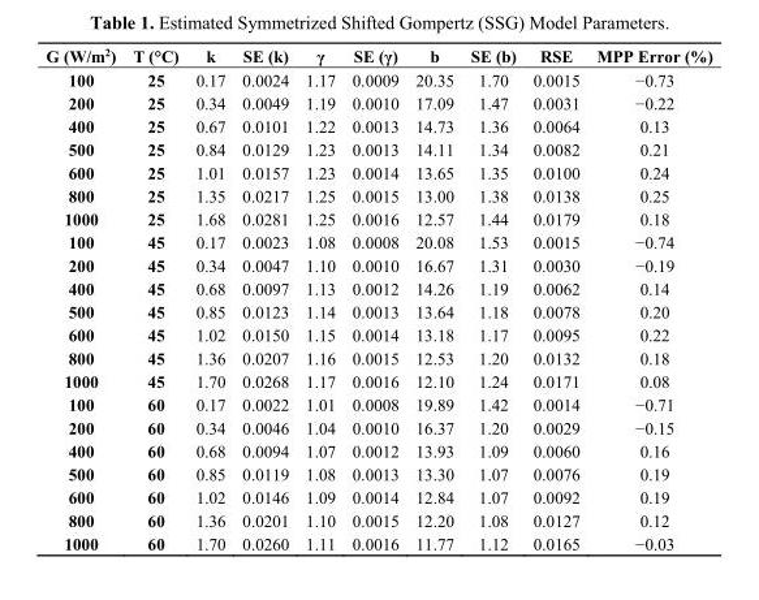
<table><thead><tr><td>G (W/m<sup>2</sup>)</td><td>T (°C)</td><td>k</td><td>SE (k)</td><td>γ</td><td>SE (γ)</td><td>b</td><td>SE (b)</td><td>RSE</td><td>MPP Error (%)</td></tr></thead><tbody><tr><td>100</td><td>25</td><td>0.17</td><td>0.0024</td><td>1.17</td><td>0.0009</td><td>20.35</td><td>1.70</td><td>0.0015</td><td>−0.73</td></tr><tr><td>200</td><td>25</td><td>0.34</td><td>0.0049</td><td>1.19</td><td>0.0010</td><td>17.09</td><td>1.47</td><td>0.0031</td><td>−0.22</td></tr><tr><td>400</td><td>25</td><td>0.67</td><td>0.0101</td><td>1.22</td><td>0.0013</td><td>14.73</td><td>1.36</td><td>0.0064</td><td>0.13</td></tr><tr><td>500</td><td>25</td><td>0.84</td><td>0.0129</td><td>1.23</td><td>0.0013</td><td>14.11</td><td>1.34</td><td>0.0082</td><td>0.21</td></tr><tr><td>600</td><td>25</td><td>1.01</td><td>0.0157</td><td>1.23</td><td>0.0014</td><td>13.65</td><td>1.35</td><td>0.0100</td><td>0.24</td></tr><tr><td>800</td><td>25</td><td>1.35</td><td>0.0217</td><td>1.25</td><td>0.0015</td><td>13.00</td><td>1.38</td><td>0.0138</td><td>0.25</td></tr><tr><td>1000</td><td>25</td><td>1.68</td><td>0.0281</td><td>1.25</td><td>0.0016</td><td>12.57</td><td>1.44</td><td>0.0179</td><td>0.18</td></tr><tr><td>100</td><td>45</td><td>0.17</td><td>0.0023</td><td>1.08</td><td>0.0008</td><td>20.08</td><td>1.53</td><td>0.0015</td><td>−0.74</td></tr><tr><td>200</td><td>45</td><td>0.34</td><td>0.0047</td><td>1.10</td><td>0.0010</td><td>16.67</td><td>1.31</td><td>0.0030</td><td>−0.19</td></tr><tr><td>400</td><td>45</td><td>0.68</td><td>0.0097</td><td>1.13</td><td>0.0012</td><td>14.26</td><td>1.19</td><td>0.0062</td><td>0.14</td></tr><tr><td>500</td><td>45</td><td>0.85</td><td>0.0123</td><td>1.14</td><td>0.0013</td><td>13.64</td><td>1.18</td><td>0.0078</td><td>0.20</td></tr><tr><td>600</td><td>45</td><td>1.02</td><td>0.0150</td><td>1.15</td><td>0.0014</td><td>13.18</td><td>1.17</td><td>0.0095</td><td>0.22</td></tr><tr><td>800</td><td>45</td><td>1.36</td><td>0.0207</td><td>1.16</td><td>0.0015</td><td>12.53</td><td>1.20</td><td>0.0132</td><td>0.18</td></tr><tr><td>1000</td><td>45</td><td>1.70</td><td>0.0268</td><td>1.17</td><td>0.0016</td><td>12.10</td><td>1.24</td><td>0.0171</td><td>0.08</td></tr><tr><td>100</td><td>60</td><td>0.17</td><td>0.0022</td><td>1.01</td><td>0.0008</td><td>19.89</td><td>1.42</td><td>0.0014</td><td>−0.71</td></tr><tr><td>200</td><td>60</td><td>0.34</td><td>0.0046</td><td>1.04</td><td>0.0010</td><td>16.37</td><td>1.20</td><td>0.0029</td><td>−0.15</td></tr><tr><td>400</td><td>60</td><td>0.68</td><td>0.0094</td><td>1.07</td><td>0.0012</td><td>13.93</td><td>1.09</td><td>0.0060</td><td>0.16</td></tr><tr><td>500</td><td>60</td><td>0.85</td><td>0.0119</td><td>1.08</td><td>0.0013</td><td>13.30</td><td>1.07</td><td>0.0076</td><td>0.19</td></tr><tr><td>600</td><td>60</td><td>1.02</td><td>0.0146</td><td>1.09</td><td>0.0014</td><td>12.84</td><td>1.07</td><td>0.0092</td><td>0.19</td></tr><tr><td>800</td><td>60</td><td>1.36</td><td>0.0201</td><td>1.10</td><td>0.0015</td><td>12.20</td><td>1.08</td><td>0.0127</td><td>0.12</td></tr><tr><td>1000</td><td>60</td><td>1.70</td><td>0.0260</td><td>1.11</td><td>0.0016</td><td>11.77</td><td>1.12</td><td>0.0165</td><td>−0.03</td></tr></tbody></table>